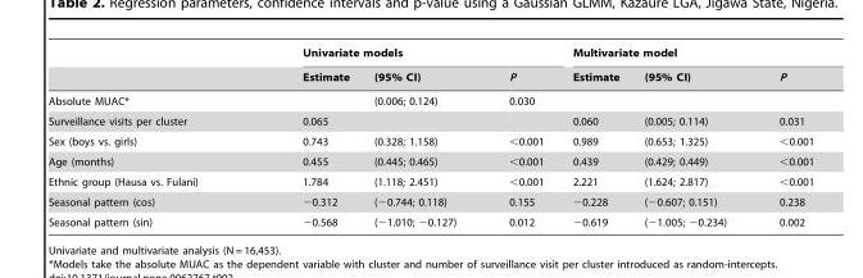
<table><thead><tr><td rowspan="2"></td><td colspan="3">Univariate models</td><td colspan="3">Multivariate model</td></tr><tr><td>Estimate</td><td>(95% CI)</td><td>P</td><td>Estimate</td><td>(95% CI)</td><td>P</td></tr></thead><tbody><tr><td>Absolute MUAC*</td><td></td><td>(0.006; 0.124)</td><td>0.030</td><td></td><td></td><td></td></tr><tr><td>Surveillance visits per cluster</td><td>0.065</td><td></td><td></td><td>0.060</td><td>(0.005; 0.114)</td><td>0.031</td></tr><tr><td>Sex (boys vs. girls)</td><td>0.743</td><td>(0.328; 1.158)</td><td>&lt;0.001</td><td>0.989</td><td>(0.653; 1.325)</td><td>&lt;0.001</td></tr><tr><td>Age (months)</td><td>0.455</td><td>(0.445; 0.465)</td><td>&lt;0.001</td><td>0.439</td><td>(0.429; 0.449)</td><td>&lt;0.001</td></tr><tr><td>Ethnic group (Hausa vs. Fulani)</td><td>1.784</td><td>(1.118; 2.451)</td><td>&lt;0.001</td><td>2.221</td><td>(1.624; 2.817)</td><td>&lt;0.001</td></tr><tr><td>Seasonal pattern (cos)</td><td>−0.312</td><td>(−0.744; 0.118)</td><td>0.155</td><td>−0.228</td><td>(−0.607; 0.151)</td><td>0.238</td></tr><tr><td>Seasonal pattern (sin)</td><td>−0.568</td><td>(−1.010; −0.127)</td><td>0.012</td><td>−0.619</td><td>(−1.005; −0.234)</td><td>0.002</td></tr></tbody></table>